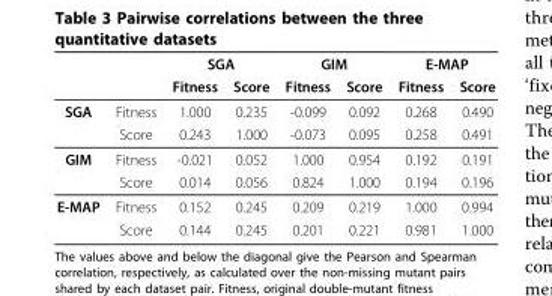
<table><thead><tr><td rowspan="2"></td><td rowspan="2"></td><td colspan="2">SGA</td><td colspan="2">GIM</td><td colspan="2">E-MAP</td></tr><tr><td>Fitness</td><td>Score</td><td>Fitness</td><td>Score</td><td>Fitness</td><td>Score</td></tr></thead><tbody><tr><td rowspan="2">SGA</td><td>Fitness</td><td>1.000</td><td>0.235</td><td>-0.099</td><td>0.092</td><td>0.268</td><td>0.490</td></tr><tr><td>Score</td><td>0.243</td><td>1.000</td><td>-0.073</td><td>0.095</td><td>0.258</td><td>0.491</td></tr><tr><td rowspan="2">GIM</td><td>Fitness</td><td>-0.021</td><td>0.052</td><td>1.000</td><td>0.954</td><td>0.192</td><td>0.191</td></tr><tr><td>Score</td><td>0.014</td><td>0.056</td><td>0.824</td><td>1.000</td><td>0.194</td><td>0.196</td></tr><tr><td rowspan="2">E-MAP</td><td>Fitness</td><td>0.152</td><td>0.245</td><td>0.209</td><td>0.219</td><td>1.000</td><td>0.994</td></tr><tr><td>Score</td><td>0.144</td><td>0.245</td><td>0.201</td><td>0.221</td><td>0.981</td><td>1.000</td></tr></tbody></table>